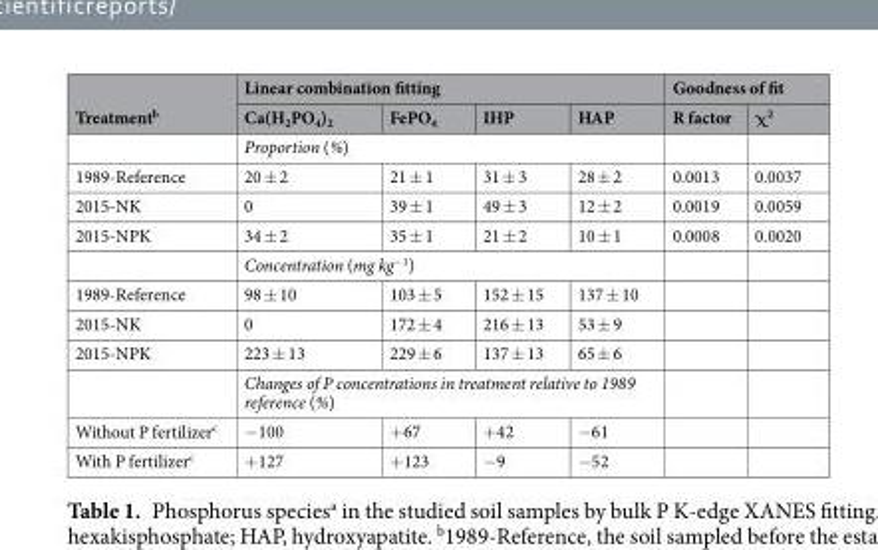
<table><thead><tr><td rowspan="2">Treatment<sup>b</sup></td><td colspan="4">Linear combination fitting</td><td colspan="2">Goodness of fit</td></tr><tr><td>Ca(H<sub>2</sub>PO<sub>4</sub>)<sub>2</sub></td><td>FePO<sub>4</sub></td><td>IHP</td><td>HAP</td><td>R factor</td><td>χ<sup>2</sup></td></tr></thead><tbody><tr><td></td><td colspan="4">Proportion (%)</td><td></td><td></td></tr><tr><td>1989-Reference</td><td>20 ± 2</td><td>21 ± 1</td><td>31 ± 3</td><td>28 ± 2</td><td>0.0013</td><td>0.0037</td></tr><tr><td>2015-NK</td><td>0</td><td>39 ± 1</td><td>49 ± 3</td><td>12 ± 2</td><td>0.0019</td><td>0.0059</td></tr><tr><td rowspan="2">2015-NPK</td><td>34 ± 2</td><td>35 ± 1</td><td>21 ± 2</td><td>10 ± 1</td><td>0.0008</td><td>0.0020</td></tr><tr><td colspan="4">Concentration (mg kg<sup>−1</sup>)</td><td></td><td></td></tr><tr><td>1989-Reference</td><td>98 ± 10</td><td>103 ± 5</td><td>152 ± 15</td><td>137 ± 10</td><td></td><td></td></tr><tr><td>2015-NK</td><td>0</td><td>172 ± 4</td><td>216 ± 13</td><td>53 ± 9</td><td></td><td></td></tr><tr><td rowspan="2">2015-NPK</td><td>223 ± 13</td><td>229 ± 6</td><td>137 ± 13</td><td>65 ± 6</td><td></td><td></td></tr><tr><td colspan="4">Changes of P concentrations in treatment relative to 1989 reference (%)</td><td></td><td></td></tr><tr><td>Without P fertilizer<sup>c</sup></td><td>−100</td><td>+67</td><td>+42</td><td>−61</td><td></td><td></td></tr><tr><td>With P fertilizer<sup>c</sup></td><td>+127</td><td>+123</td><td>−9</td><td>−52</td><td></td><td></td></tr></tbody></table>